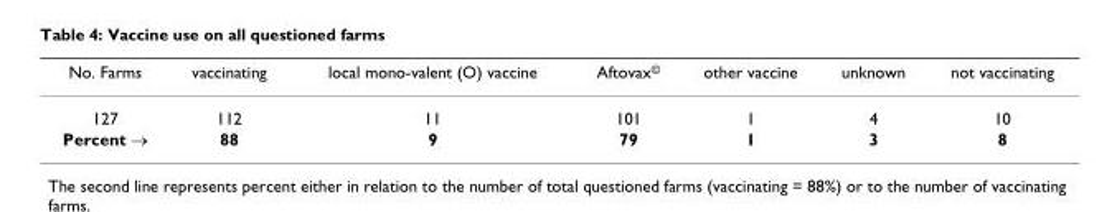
<table><thead><tr><td>No. Farms</td><td>vaccinating</td><td>local mono-valent (O) vaccine</td><td>Aftovax<sup>©</sup></td><td>other vaccine</td><td>unknown</td><td>not vaccinating</td></tr></thead><tbody><tr><td>127</td><td>112</td><td>11</td><td>101</td><td>1</td><td>4</td><td>10</td></tr><tr><td>Percent →</td><td>88</td><td>9</td><td>79</td><td>1</td><td>3</td><td>8</td></tr></tbody></table>